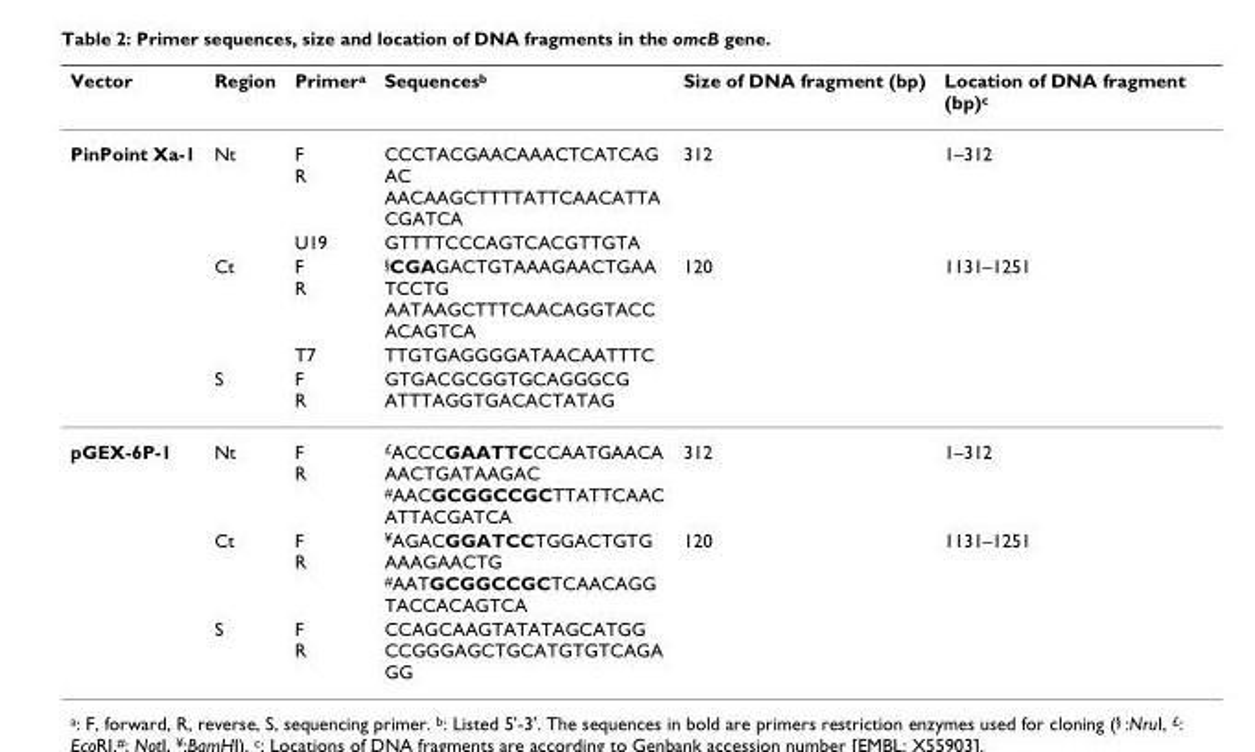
<table><thead><tr><td>Vector</td><td>Region</td><td>Primer<sup>a</sup></td><td>Sequences<sup>b</sup></td><td>Size of DNA fragment (bp)</td><td>Location of DNA fragment (bp)<sup>c</sup></td></tr></thead><tbody><tr><td rowspan="5">PinPoint Xa-1</td><td>Nt</td><td>F R</td><td>CCCTACGAACAAACTCATCAG AC AACAAGCTTTTATTCAACATTA CGATCA</td><td>312</td><td>1–312</td></tr><tr><td></td><td>U19</td><td>GTTTTCCCAGTCACGTTGTA</td><td></td><td></td></tr><tr><td>Ct</td><td>F R</td><td><sup>§</sup>CGAGACTGTAAAGAACTGAA TCCTG AATAAGCTTTCAACAGGTACC ACAGTCA</td><td>120</td><td>1131–1251</td></tr><tr><td></td><td>T7</td><td>TTGTGAGGGGATAACAATTTC</td><td></td><td></td></tr><tr><td>S</td><td>F R</td><td>GTGACGCGGTGCAGGGCG ATTTAGGTGACACTATAG</td><td></td><td></td></tr><tr><td rowspan="3">pGEX-6P-1</td><td>Nt</td><td>F R</td><td><sup>£</sup>ACCCGAATTCCCAATGAACA AACTGATAAGAC <sup>#</sup>AACGCGGCCGCTTATTCAAC ATTACGATCA</td><td>312</td><td>1–312</td></tr><tr><td>Ct</td><td>F R</td><td><sup>¥</sup>AGACGGATCCTGGACTGTG AAAGAACTG <sup>#</sup>AATGCGGCCGCTCAACAGG TACCACAGTCA</td><td>120</td><td>1131–1251</td></tr><tr><td>S</td><td>F R</td><td>CCAGCAAGTATATAGCATGG CCGGGAGCTGCATGTGTCAGA GG</td><td></td><td></td></tr></tbody></table>